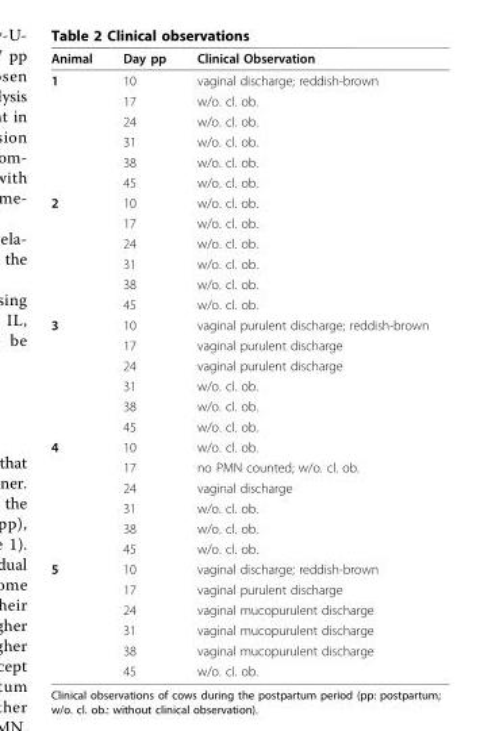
<table><thead><tr><td>Animal</td><td>Day pp</td><td>Clinical Observation</td></tr></thead><tbody><tr><td rowspan="6">1</td><td>10</td><td>vaginal discharge; reddish-brown</td></tr><tr><td>17</td><td>w/o. cl. ob.</td></tr><tr><td>24</td><td>w/o. cl. ob.</td></tr><tr><td>31</td><td>w/o. cl. ob.</td></tr><tr><td>38</td><td>w/o. cl. ob.</td></tr><tr><td>45</td><td>w/o. cl. ob.</td></tr><tr><td rowspan="6">2</td><td>10</td><td>w/o. cl. ob.</td></tr><tr><td>17</td><td>w/o. cl. ob.</td></tr><tr><td>24</td><td>w/o. cl. ob.</td></tr><tr><td>31</td><td>w/o. cl. ob.</td></tr><tr><td>38</td><td>w/o. cl. ob.</td></tr><tr><td>45</td><td>w/o. cl. ob.</td></tr><tr><td rowspan="6">3</td><td>10</td><td>vaginal purulent discharge; reddish-brown</td></tr><tr><td>17</td><td>vaginal purulent discharge</td></tr><tr><td>24</td><td>vaginal purulent discharge</td></tr><tr><td>31</td><td>w/o. cl. ob.</td></tr><tr><td>38</td><td>w/o. cl. ob.</td></tr><tr><td>45</td><td>w/o. cl. ob.</td></tr><tr><td rowspan="6">4</td><td>10</td><td>w/o. cl. ob.</td></tr><tr><td>17</td><td>no PMN counted; w/o. cl. ob.</td></tr><tr><td>24</td><td>vaginal discharge</td></tr><tr><td>31</td><td>w/o. cl. ob.</td></tr><tr><td>38</td><td>w/o. cl. ob.</td></tr><tr><td>45</td><td>w/o. cl. ob.</td></tr><tr><td rowspan="6">5</td><td>10</td><td>vaginal discharge; reddish-brown</td></tr><tr><td>17</td><td>vaginal purulent discharge</td></tr><tr><td>24</td><td>vaginal mucopurulent discharge</td></tr><tr><td>31</td><td>vaginal mucopurulent discharge</td></tr><tr><td>38</td><td>vaginal mucopurulent discharge</td></tr><tr><td>45</td><td>w/o. cl. ob.</td></tr></tbody></table>